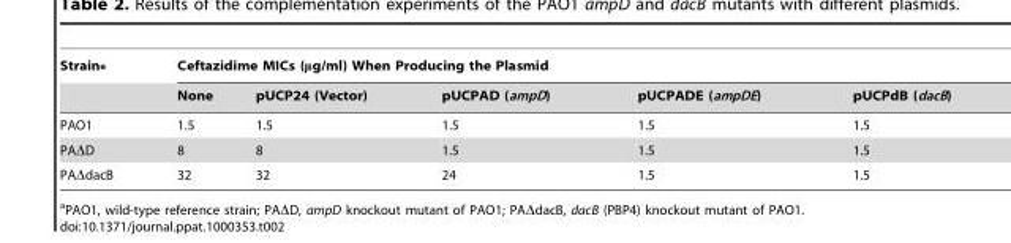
<table><thead><tr><td rowspan="2">Strain<sup>a</sup></td><td colspan="5">Ceftazidime MICs (μg/ml) When Producing the Plasmid</td></tr><tr><td>None</td><td>pUCP24 (Vector)</td><td>pUCPAD (ampD)</td><td>pUCPADE (ampDE)</td><td>pUCPdB (dacB)</td></tr></thead><tbody><tr><td>PAO1</td><td>1.5</td><td>1.5</td><td>1.5</td><td>1.5</td><td>1.5</td></tr><tr><td>PAΔD</td><td>8</td><td>8</td><td>1.5</td><td>1.5</td><td>1.5</td></tr><tr><td>PAΔdacB</td><td>32</td><td>32</td><td>24</td><td>1.5</td><td>1.5</td></tr></tbody></table>